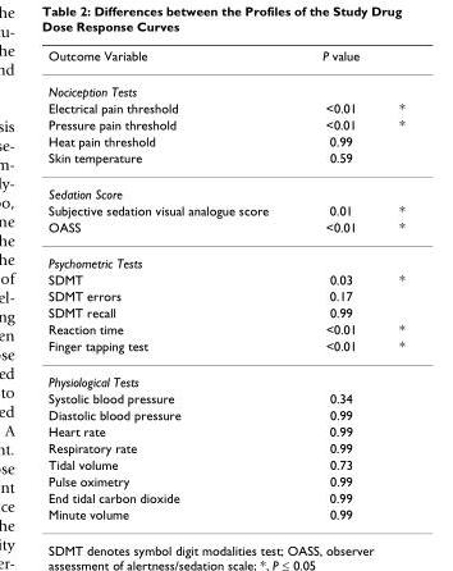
<table><thead><tr><td>Outcome Variable</td><td>P value</td><td></td></tr></thead><tbody><tr><td colspan="3">Nociception Tests</td></tr><tr><td>Electrical pain threshold</td><td>&lt;0.01</td><td>*</td></tr><tr><td>Pressure pain threshold</td><td>&lt;0.01</td><td>*</td></tr><tr><td>Heat pain threshold</td><td>0.99</td><td></td></tr><tr><td>Skin temperature</td><td>0.59</td><td></td></tr><tr><td colspan="3">Sedation Score</td></tr><tr><td>Subjective sedation visual analogue score</td><td>0.01</td><td>*</td></tr><tr><td>OASS</td><td>&lt;0.01</td><td>*</td></tr><tr><td colspan="3">Psychometric Tests</td></tr><tr><td>SDMT</td><td>0.03</td><td>*</td></tr><tr><td>SDMT errors</td><td>0.17</td><td></td></tr><tr><td>SDMT recall</td><td>0.99</td><td></td></tr><tr><td>Reaction time</td><td>&lt;0.01</td><td>*</td></tr><tr><td>Finger tapping test</td><td>&lt;0.01</td><td>*</td></tr><tr><td colspan="3">Physiological Tests</td></tr><tr><td>Systolic blood pressure</td><td>0.34</td><td></td></tr><tr><td>Diastolic blood pressure</td><td>0.99</td><td></td></tr><tr><td>Heart rate</td><td>0.99</td><td></td></tr><tr><td>Respiratory rate</td><td>0.99</td><td></td></tr><tr><td>Tidal volume</td><td>0.73</td><td></td></tr><tr><td>Pulse oximetry</td><td>0.99</td><td></td></tr><tr><td>End tidal carbon dioxide</td><td>0.99</td><td></td></tr><tr><td>Minute volume</td><td>0.99</td><td></td></tr></tbody></table>